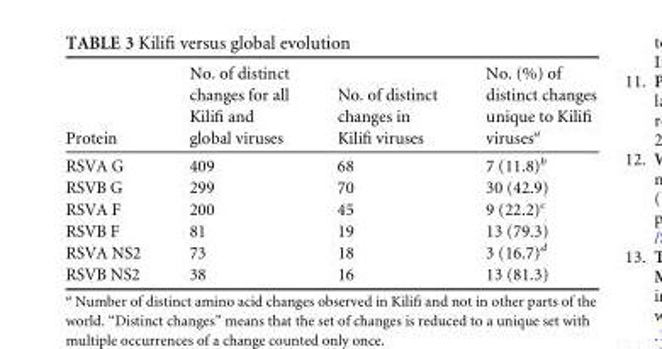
<table><thead><tr><td>Protein</td><td>No. of distinct changes for all Kilifi and global viruses</td><td>No. of distinct changes in Kilifi viruses</td><td>No. (%) of distinct changes unique to Kilifi viruses<sup>a</sup></td></tr></thead><tbody><tr><td>RSVA G</td><td>409</td><td>68</td><td>7 (11.8)<sup>b</sup></td></tr><tr><td>RSVB G</td><td>299</td><td>70</td><td>30 (42.9)</td></tr><tr><td>RSVA F</td><td>200</td><td>45</td><td>9 (22.2)<sup>c</sup></td></tr><tr><td>RSVB F</td><td>81</td><td>19</td><td>13 (79.3)</td></tr><tr><td>RSVA NS2</td><td>73</td><td>18</td><td>3 (16.7)<sup>d</sup></td></tr><tr><td>RSVB NS2</td><td>38</td><td>16</td><td>13 (81.3)</td></tr></tbody></table>